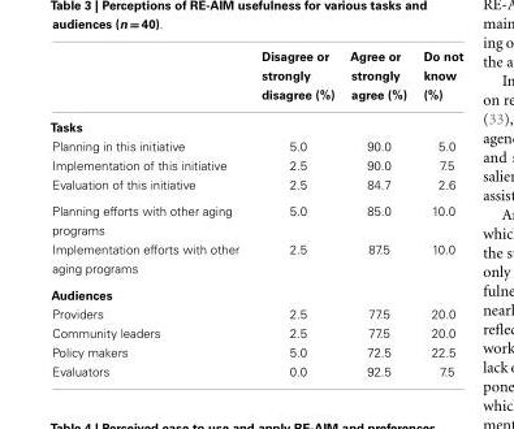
<table><thead><tr><td></td><td>Disagree or strongly disagree (%)</td><td>Agree or strongly agree (%)</td><td>Do not know (%)</td></tr></thead><tbody><tr><td colspan="4">Tasks</td></tr><tr><td>Planning in this initiative</td><td>5.0</td><td>90.0</td><td>5.0</td></tr><tr><td>Implementation of this initiative</td><td>2.5</td><td>90.0</td><td>7.5</td></tr><tr><td>Evaluation of this initiative</td><td>2.5</td><td>84.7</td><td>2.6</td></tr><tr><td>Planning efforts with other aging programs</td><td>5.0</td><td>85.0</td><td>10.0</td></tr><tr><td>Implementation efforts with other aging programs</td><td>2.5</td><td>87.5</td><td>10.0</td></tr><tr><td colspan="4">Audiences</td></tr><tr><td>Providers</td><td>2.5</td><td>77.5</td><td>20.0</td></tr><tr><td>Community leaders</td><td>2.5</td><td>77.5</td><td>20.0</td></tr><tr><td>Policy makers</td><td>5.0</td><td>72.5</td><td>22.5</td></tr><tr><td>Evaluators</td><td>0.0</td><td>92.5</td><td>7.5</td></tr></tbody></table>